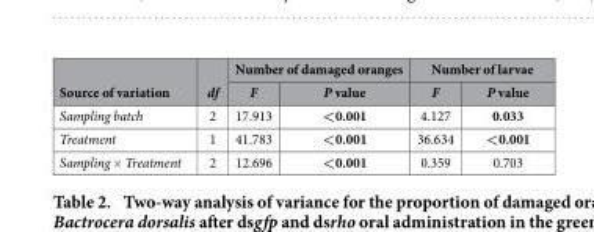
<table><thead><tr><td rowspan="2">Source of variation</td><td rowspan="2">df</td><td colspan="2">Number of damaged oranges</td><td colspan="2">Number of larvae</td></tr><tr><td>F</td><td>P value</td><td>F</td><td>P value</td></tr></thead><tbody><tr><td>Sampling batch</td><td>2</td><td>17.913</td><td>&lt;0.001</td><td>4.127</td><td>0.033</td></tr><tr><td>Treatment</td><td>1</td><td>41.783</td><td>&lt;0.001</td><td>36.634</td><td>&lt;0.001</td></tr><tr><td>Sampling × Treatment</td><td>2</td><td>12.696</td><td>&lt;0.001</td><td>0.359</td><td>0.703</td></tr></tbody></table>